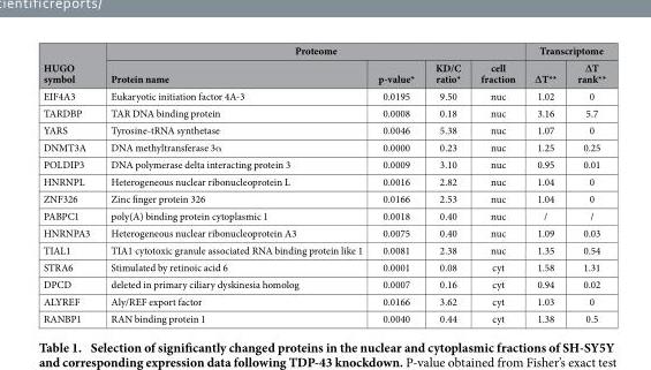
<table><thead><tr><td rowspan="2">HUGO symbol</td><td colspan="4">Proteome</td><td colspan="2">Transcriptome</td></tr><tr><td>Protein name</td><td>p-value*</td><td>KD/C ratio*</td><td>cell fraction</td><td>∆T**</td><td>∆T rank**</td></tr></thead><tbody><tr><td>EIF4A3</td><td>Eukaryotic initiation factor 4A-3</td><td>0.0195</td><td>9.50</td><td>nuc</td><td>1.02</td><td>0</td></tr><tr><td>TARDBP</td><td>TAR DNA binding protein</td><td>0.0008</td><td>0.18</td><td>nuc</td><td>3.16</td><td>5.7</td></tr><tr><td>YARS</td><td>Tyrosine-tRNA synthetase</td><td>0.0046</td><td>5.38</td><td>nuc</td><td>1.07</td><td>0</td></tr><tr><td>DNMT3A</td><td>DNA methyltransferase 3α</td><td>0.0000</td><td>0.23</td><td>nuc</td><td>1.25</td><td>0.25</td></tr><tr><td>POLDIP3</td><td>DNA polymerase delta interacting protein 3</td><td>0.0009</td><td>3.10</td><td>nuc</td><td>0.95</td><td>0.01</td></tr><tr><td>HNRNPL</td><td>Heterogeneous nuclear ribonucleoprotein L</td><td>0.0016</td><td>2.82</td><td>nuc</td><td>1.04</td><td>0</td></tr><tr><td>ZNF326</td><td>Zinc finger protein 326</td><td>0.0166</td><td>2.53</td><td>nuc</td><td>1.04</td><td>0</td></tr><tr><td>PABPC1</td><td>poly(A) binding protein cytoplasmic 1</td><td>0.0018</td><td>0.40</td><td>nuc</td><td>/</td><td>/</td></tr><tr><td>HNRNPA3</td><td>Heterogeneous nuclear ribonucleoprotein A3</td><td>0.0075</td><td>0.40</td><td>nuc</td><td>1.09</td><td>0.03</td></tr><tr><td>TIAL1</td><td>TIA1 cytotoxic granule associated RNA binding protein like 1</td><td>0.0081</td><td>2.38</td><td>nuc</td><td>1.35</td><td>0.54</td></tr><tr><td>STRA6</td><td>Stimulated by retinoic acid 6</td><td>0.0001</td><td>0.08</td><td>cyt</td><td>1.58</td><td>1.31</td></tr><tr><td>DPCD</td><td>deleted in primary ciliary dyskinesia homolog</td><td>0.0007</td><td>0.16</td><td>cyt</td><td>0.94</td><td>0.02</td></tr><tr><td>ALYREF</td><td>Aly/REF export factor</td><td>0.0166</td><td>3.62</td><td>cyt</td><td>1.03</td><td>0</td></tr><tr><td>RANBP1</td><td>RAN binding protein 1</td><td>0.0040</td><td>0.44</td><td>cyt</td><td>1.38</td><td>0.5</td></tr></tbody></table>